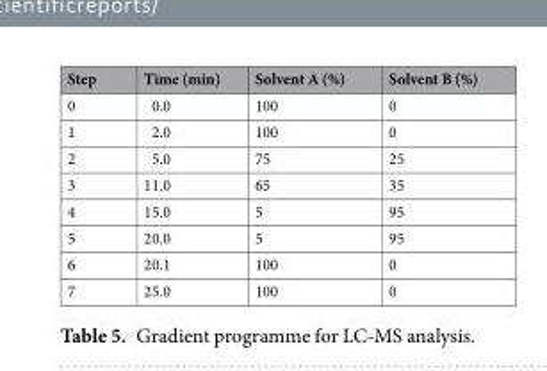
<table><thead><tr><td>Step</td><td>Time (min)</td><td>Solvent A (%)</td><td>Solvent B (%)</td></tr></thead><tbody><tr><td>0</td><td>0.0</td><td>100</td><td>0</td></tr><tr><td>1</td><td>2.0</td><td>100</td><td>0</td></tr><tr><td>2</td><td>5.0</td><td>75</td><td>25</td></tr><tr><td>3</td><td>11.0</td><td>65</td><td>35</td></tr><tr><td>4</td><td>15.0</td><td>5</td><td>95</td></tr><tr><td>5</td><td>20.0</td><td>5</td><td>95</td></tr><tr><td>6</td><td>20.1</td><td>100</td><td>0</td></tr><tr><td>7</td><td>25.0</td><td>100</td><td>0</td></tr></tbody></table>